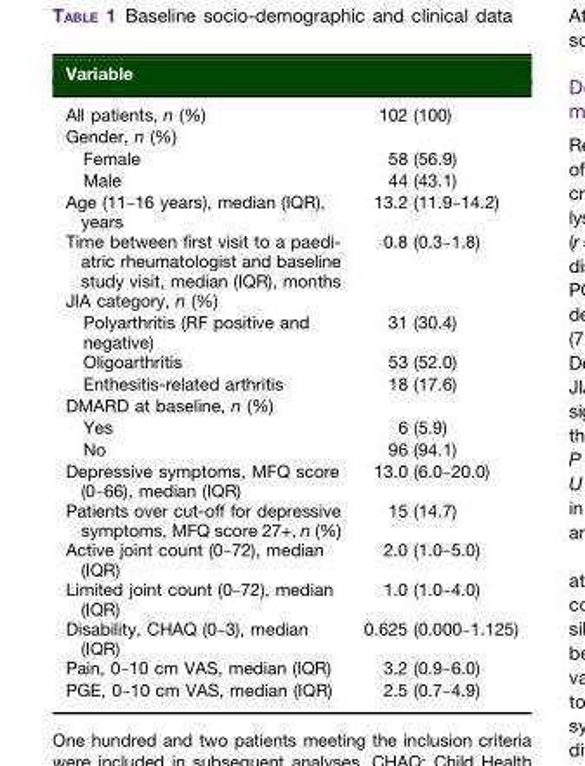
<table><thead><tr><td>Variable</td><td></td></tr></thead><tbody><tr><td>All patients, n (%)</td><td>102 (100)</td></tr><tr><td colspan="2">Gender, n (%)</td></tr><tr><td>Female</td><td>58 (56.9)</td></tr><tr><td>Male</td><td>44 (43.1)</td></tr><tr><td>Age (11–16 years), median (IQR), years</td><td>13.2 (11.9–14.2)</td></tr><tr><td>Time between first visit to a paedi- atric rheumatologist and baseline study visit, median (IQR), months</td><td>0.8 (0.3–1.8)</td></tr><tr><td colspan="2">JIA category, n (%)</td></tr><tr><td>Polyarthritis (RF positive and negative)</td><td>31 (30.4)</td></tr><tr><td>Oligoarthritis</td><td>53 (52.0)</td></tr><tr><td>Enthesitis-related arthritis</td><td>18 (17.6)</td></tr><tr><td colspan="2">DMARD at baseline, n (%)</td></tr><tr><td>Yes</td><td>6 (5.9)</td></tr><tr><td>No</td><td>96 (94.1)</td></tr><tr><td>Depressive symptoms, MFQ score (0–66), median (IQR)</td><td>13.0 (6.0–20.0)</td></tr><tr><td>Patients over cut-off for depressive symptoms, MFQ score 27+, n (%)</td><td>15 (14.7)</td></tr><tr><td>Active joint count (0–72), median (IQR)</td><td>2.0 (1.0–5.0)</td></tr><tr><td>Limited joint count (0–72), median (IQR)</td><td>1.0 (1.0–4.0)</td></tr><tr><td>Disability, CHAQ (0–3), median (IQR)</td><td>0.625 (0.000–1.125)</td></tr><tr><td>Pain, 0–10 cm VAS, median (IQR)</td><td>3.2 (0.9–6.0)</td></tr><tr><td>PGE, 0–10 cm VAS, median (IQR)</td><td>2.5 (0.7–4.9)</td></tr></tbody></table>